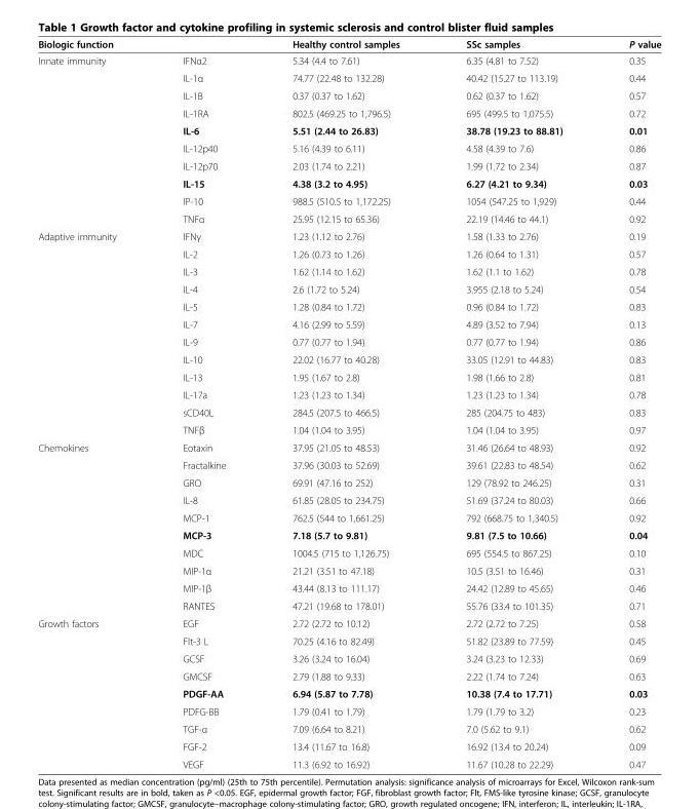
<table><thead><tr><td>Biologic function</td><td></td><td>Healthy control samples</td><td>SSc samples</td><td>P value</td></tr></thead><tbody><tr><td rowspan="10">Innate immunity</td><td>IFNα2</td><td>5.34 (4.4 to 7.61)</td><td>6.35 (4.81 to 7.52)</td><td>0.35</td></tr><tr><td>IL-1α</td><td>74.77 (22.48 to 132.28)</td><td>40.42 (15.27 to 113.19)</td><td>0.44</td></tr><tr><td>IL-1B</td><td>0.37 (0.37 to 1.62)</td><td>0.62 (0.37 to 1.62)</td><td>0.57</td></tr><tr><td>IL-1RA</td><td>802.5 (469.25 to 1,796.5)</td><td>695 (499.5 to 1,075.5)</td><td>0.72</td></tr><tr><td>IL-6</td><td>5.51 (2.44 to 26.83)</td><td>38.78 (19.23 to 88.81)</td><td>0.01</td></tr><tr><td>IL-12p40</td><td>5.16 (4.39 to 6.11)</td><td>4.58 (4.39 to 7.6)</td><td>0.86</td></tr><tr><td>IL-12p70</td><td>2.03 (1.74 to 2.21)</td><td>1.99 (1.72 to 2.34)</td><td>0.87</td></tr><tr><td>IL-15</td><td>4.38 (3.2 to 4.95)</td><td>6.27 (4.21 to 9.34)</td><td>0.03</td></tr><tr><td>IP-10</td><td>988.5 (510.5 to 1,172.25)</td><td>1054 (547.25 to 1,929)</td><td>0.44</td></tr><tr><td>TNFα</td><td>25.95 (12.15 to 65.36)</td><td>22.19 (14.46 to 44.1)</td><td>0.92</td></tr><tr><td rowspan="12">Adaptive immunity</td><td>IFNγ</td><td>1.23 (1.12 to 2.76)</td><td>1.58 (1.33 to 2.76)</td><td>0.19</td></tr><tr><td>IL-2</td><td>1.26 (0.73 to 1.26)</td><td>1.26 (0.64 to 1.31)</td><td>0.57</td></tr><tr><td>IL-3</td><td>1.62 (1.14 to 1.62)</td><td>1.62 (1.1 to 1.62)</td><td>0.78</td></tr><tr><td>IL-4</td><td>2.6 (1.72 to 5.24)</td><td>3.955 (2.18 to 5.24)</td><td>0.54</td></tr><tr><td>IL-5</td><td>1.28 (0.84 to 1.72)</td><td>0.96 (0.84 to 1.72)</td><td>0.83</td></tr><tr><td>IL-7</td><td>4.16 (2.99 to 5.59)</td><td>4.89 (3.52 to 7.94)</td><td>0.13</td></tr><tr><td>IL-9</td><td>0.77 (0.77 to 1.94)</td><td>0.77 (0.77 to 1.94)</td><td>0.86</td></tr><tr><td>IL-10</td><td>22.02 (16.77 to 40.28)</td><td>33.05 (12.91 to 44.83)</td><td>0.83</td></tr><tr><td>IL-13</td><td>1.95 (1.67 to 2.8)</td><td>1.98 (1.66 to 2.8)</td><td>0.81</td></tr><tr><td>IL-17a</td><td>1.23 (1.23 to 1.34)</td><td>1.23 (1.23 to 1.34)</td><td>0.78</td></tr><tr><td>sCD40L</td><td>284.5 (207.5 to 466.5)</td><td>285 (204.75 to 483)</td><td>0.83</td></tr><tr><td>TNFβ</td><td>1.04 (1.04 to 3.95)</td><td>1.04 (1.04 to 3.95)</td><td>0.97</td></tr><tr><td rowspan="10">Chemokines</td><td>Eotaxin</td><td>37.95 (21.05 to 48.53)</td><td>31.46 (26.64 to 48.93)</td><td>0.92</td></tr><tr><td>Fractalkine</td><td>37.96 (30.03 to 52.69)</td><td>39.61 (22.83 to 48.54)</td><td>0.62</td></tr><tr><td>GRO</td><td>69.91 (47.16 to 252)</td><td>129 (78.92 to 246.25)</td><td>0.31</td></tr><tr><td>IL-8</td><td>61.85 (28.05 to 234.75)</td><td>51.69 (37.24 to 80.03)</td><td>0.66</td></tr><tr><td>MCP-1</td><td>762.5 (544 to 1,661.25)</td><td>792 (668.75 to 1,340.5)</td><td>0.92</td></tr><tr><td>MCP-3</td><td>7.18 (5.7 to 9.81)</td><td>9.81 (7.5 to 10.66)</td><td>0.04</td></tr><tr><td>MDC</td><td>1004.5 (715 to 1,126.75)</td><td>695 (554.5 to 867.25)</td><td>0.10</td></tr><tr><td>MIP-1α</td><td>21.21 (3.51 to 47.18)</td><td>10.5 (3.51 to 16.46)</td><td>0.31</td></tr><tr><td>MIP-1β</td><td>43.44 (8.13 to 111.17)</td><td>24.42 (12.89 to 45.65)</td><td>0.46</td></tr><tr><td>RANTES</td><td>47.21 (19.68 to 178.01)</td><td>55.76 (33.4 to 101.35)</td><td>0.71</td></tr><tr><td rowspan="9">Growth factors</td><td>EGF</td><td>2.72 (2.72 to 10.12)</td><td>2.72 (2.72 to 7.25)</td><td>0.58</td></tr><tr><td>Flt-3 L</td><td>70.25 (4.16 to 82.49)</td><td>51.82 (23.89 to 77.59)</td><td>0.45</td></tr><tr><td>GCSF</td><td>3.26 (3.24 to 16.04)</td><td>3.24 (3.23 to 12.33)</td><td>0.69</td></tr><tr><td>GMCSF</td><td>2.79 (1.88 to 9.33)</td><td>2.22 (1.74 to 7.24)</td><td>0.63</td></tr><tr><td>PDGF-AA</td><td>6.94 (5.87 to 7.78)</td><td>10.38 (7.4 to 17.71)</td><td>0.03</td></tr><tr><td>PDFG-BB</td><td>1.79 (0.41 to 1.79)</td><td>1.79 (1.79 to 3.2)</td><td>0.23</td></tr><tr><td>TGF-α</td><td>7.09 (6.64 to 8.21)</td><td>7.0 (5.62 to 9.1)</td><td>0.62</td></tr><tr><td>FGF-2</td><td>13.4 (11.67 to 16.8)</td><td>16.92 (13.4 to 20.24)</td><td>0.09</td></tr><tr><td>VEGF</td><td>11.3 (6.92 to 16.92)</td><td>11.67 (10.28 to 22.29)</td><td>0.47</td></tr></tbody></table>